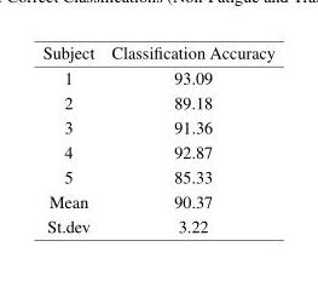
<table><thead><tr><td>Subject</td><td>Classification Accuracy</td></tr></thead><tbody><tr><td>1</td><td>93.09</td></tr><tr><td>2</td><td>89.18</td></tr><tr><td>3</td><td>91.36</td></tr><tr><td>4</td><td>92.87</td></tr><tr><td>5</td><td>85.33</td></tr><tr><td>Mean</td><td>90.37</td></tr><tr><td>St.dev</td><td>3.22</td></tr></tbody></table>